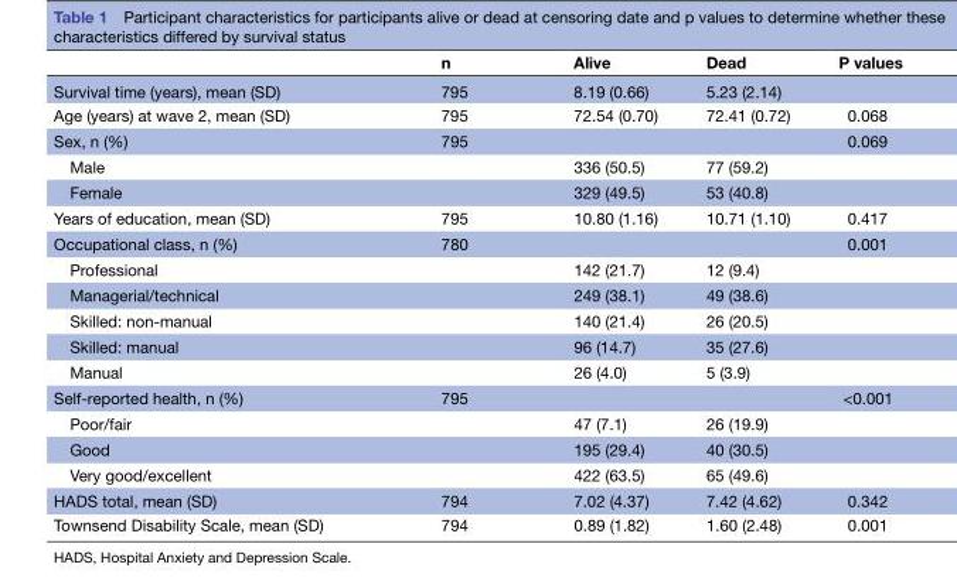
<table><thead><tr><td></td><td>n</td><td>Alive</td><td>Dead</td><td>P values</td></tr></thead><tbody><tr><td>Survival time (years), mean (SD)</td><td>795</td><td>8.19 (0.66)</td><td>5.23 (2.14)</td><td></td></tr><tr><td>Age (years) at wave 2, mean (SD)</td><td>795</td><td>72.54 (0.70)</td><td>72.41 (0.72)</td><td>0.068</td></tr><tr><td>Sex, n (%)</td><td>795</td><td></td><td></td><td>0.069</td></tr><tr><td>Male</td><td></td><td>336 (50.5)</td><td>77 (59.2)</td><td></td></tr><tr><td>Female</td><td></td><td>329 (49.5)</td><td>53 (40.8)</td><td></td></tr><tr><td>Years of education, mean (SD)</td><td>795</td><td>10.80 (1.16)</td><td>10.71 (1.10)</td><td>0.417</td></tr><tr><td>Occupational class, n (%)</td><td>780</td><td></td><td></td><td>0.001</td></tr><tr><td>Professional</td><td></td><td>142 (21.7)</td><td>12 (9.4)</td><td></td></tr><tr><td>Managerial/technical</td><td></td><td>249 (38.1)</td><td>49 (38.6)</td><td></td></tr><tr><td>Skilled: non-manual</td><td></td><td>140 (21.4)</td><td>26 (20.5)</td><td></td></tr><tr><td>Skilled: manual</td><td></td><td>96 (14.7)</td><td>35 (27.6)</td><td></td></tr><tr><td>Manual</td><td></td><td>26 (4.0)</td><td>5 (3.9)</td><td></td></tr><tr><td>Self-reported health, n (%)</td><td>795</td><td></td><td></td><td>&lt;0.001</td></tr><tr><td>Poor/fair</td><td></td><td>47 (7.1)</td><td>26 (19.9)</td><td></td></tr><tr><td>Good</td><td></td><td>195 (29.4)</td><td>40 (30.5)</td><td></td></tr><tr><td>Very good/excellent</td><td></td><td>422 (63.5)</td><td>65 (49.6)</td><td></td></tr><tr><td>HADS total, mean (SD)</td><td>794</td><td>7.02 (4.37)</td><td>7.42 (4.62)</td><td>0.342</td></tr><tr><td>Townsend Disability Scale, mean (SD)</td><td>794</td><td>0.89 (1.82)</td><td>1.60 (2.48)</td><td>0.001</td></tr></tbody></table>